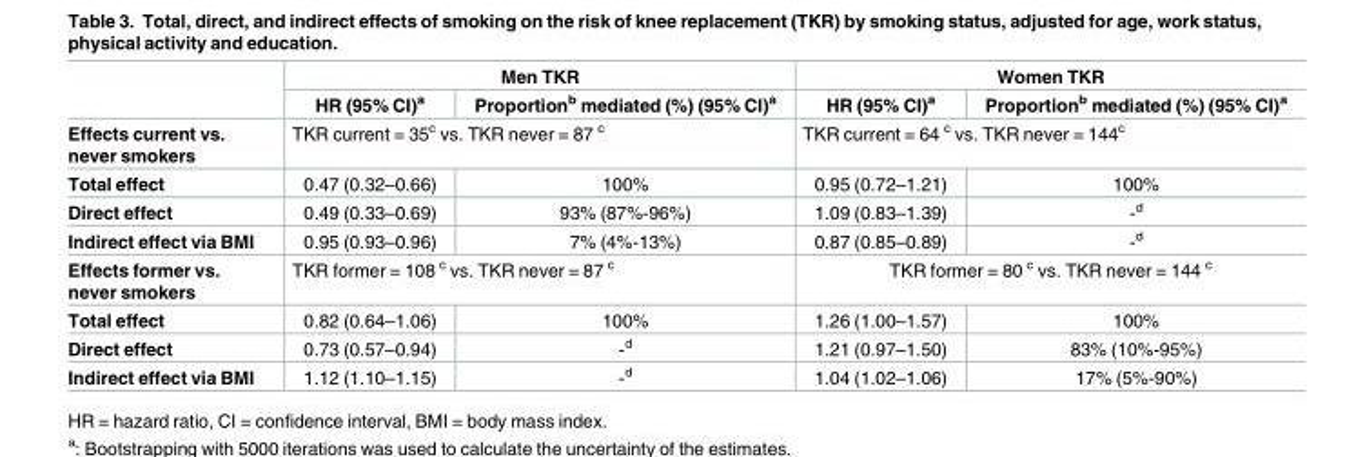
<table><thead><tr><td rowspan="2"></td><td colspan="2">Men TKR</td><td colspan="2">Women TKR</td></tr><tr><td>HR (95% CI)<sup>a</sup></td><td>Proportion<sup>b</sup> mediated (%) (95% CI)<sup>a</sup></td><td>HR (95% CI)<sup>a</sup></td><td>Proportion<sup>b</sup> mediated (%) (95% CI)<sup>a</sup></td></tr></thead><tbody><tr><td>Effects current vs. never smokers</td><td colspan="2">TKR current = 35<sup>c</sup> vs. TKR never = 87 <sup>c</sup></td><td colspan="2">TKR current = 64 <sup>c</sup> vs. TKR never = 144<sup>c</sup></td></tr><tr><td>Total effect</td><td>0.47 (0.32–0.66)</td><td>100%</td><td>0.95 (0.72–1.21)</td><td>100%</td></tr><tr><td>Direct effect</td><td>0.49 (0.33–0.69)</td><td>93% (87%-96%)</td><td>1.09 (0.83–1.39)</td><td>-<sup>d</sup></td></tr><tr><td>Indirect effect via BMI</td><td>0.95 (0.93–0.96)</td><td>7% (4%-13%)</td><td>0.87 (0.85–0.89)</td><td>-<sup>d</sup></td></tr><tr><td>Effects former vs. never smokers</td><td colspan="2">TKR former = 108 <sup>c</sup> vs. TKR never = 87 <sup>c</sup></td><td colspan="2">TKR former = 80 <sup>c</sup> vs. TKR never = 144 <sup>c</sup></td></tr><tr><td>Total effect</td><td>0.82 (0.64–1.06)</td><td>100%</td><td>1.26 (1.00–1.57)</td><td>100%</td></tr><tr><td>Direct effect</td><td>0.73 (0.57–0.94)</td><td>-<sup>d</sup></td><td>1.21 (0.97–1.50)</td><td>83% (10%-95%)</td></tr><tr><td>Indirect effect via BMI</td><td>1.12 (1.10–1.15)</td><td>-<sup>d</sup></td><td>1.04 (1.02–1.06)</td><td>17% (5%-90%)</td></tr></tbody></table>